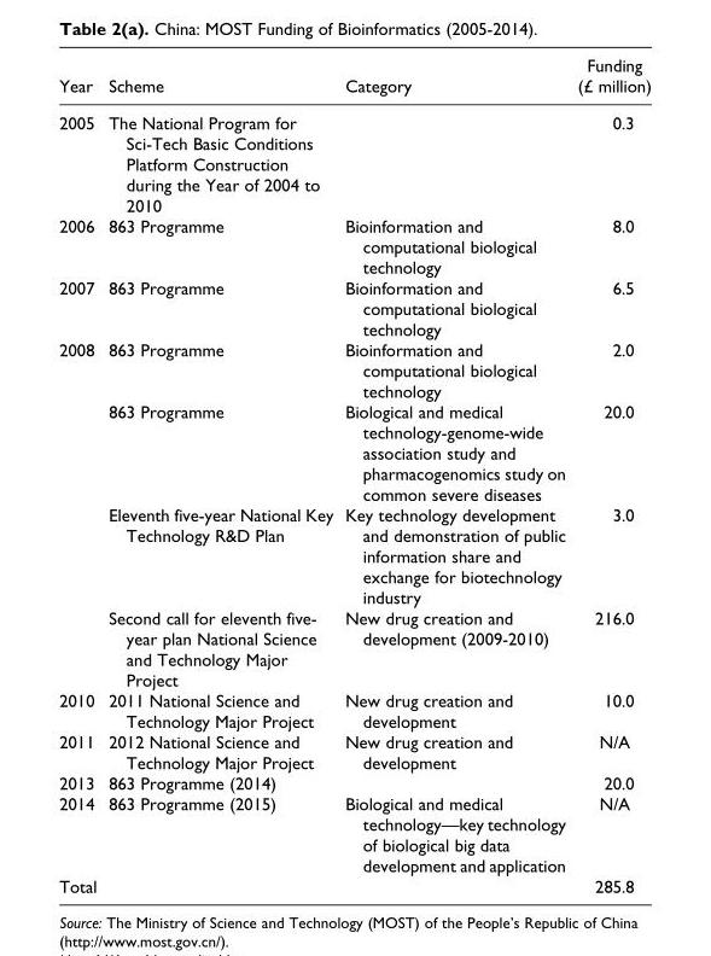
<table><thead><tr><td>Year</td><td>Scheme</td><td>Category</td><td>Funding (£ million)</td></tr></thead><tbody><tr><td>2005</td><td>The National Program for Sci-Tech Basic Conditions Platform Construction during the Year of 2004 to 2010</td><td></td><td>0.3</td></tr><tr><td>2006</td><td>863 Programme</td><td>Bioinformation and computational biological technology</td><td>8.0</td></tr><tr><td>2007</td><td>863 Programme</td><td>Bioinformation and computational biological technology</td><td>6.5</td></tr><tr><td rowspan="4">2008</td><td>863 Programme</td><td>Bioinformation and computational biological technology</td><td>2.0</td></tr><tr><td>863 Programme</td><td>Biological and medical technology-genome-wide association study and pharmacogenomics study on common severe diseases</td><td>20.0</td></tr><tr><td>Eleventh five-year National Key Technology R&amp;D Plan</td><td>Key technology development and demonstration of public information share and exchange for biotechnology industry</td><td>3.0</td></tr><tr><td>Second call for eleventh five- year plan National Science and Technology Major Project</td><td>New drug creation and development (2009-2010)</td><td>216.0</td></tr><tr><td>2010</td><td>2011 National Science and Technology Major Project</td><td>New drug creation and development</td><td>10.0</td></tr><tr><td>2011</td><td>2012 National Science and Technology Major Project</td><td>New drug creation and development</td><td>N/A</td></tr><tr><td>2013</td><td>863 Programme (2014)</td><td></td><td>20.0</td></tr><tr><td>2014</td><td>863 Programme (2015)</td><td>Biological and medical technology—key technology of biological big data development and application</td><td>N/A</td></tr><tr><td>Total</td><td></td><td></td><td>285.8</td></tr></tbody></table>